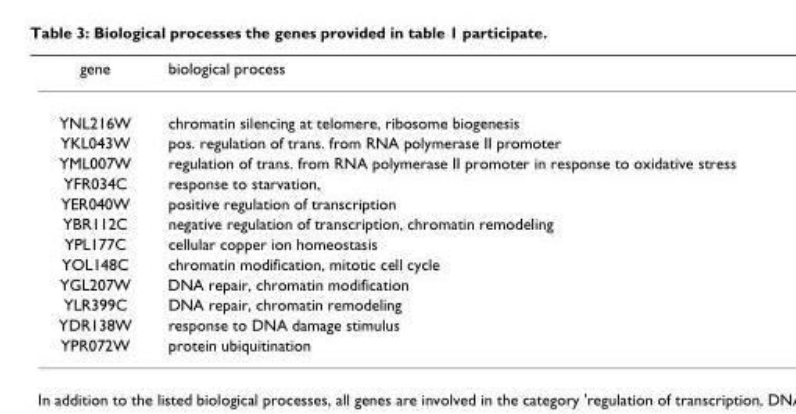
<table><thead><tr><td>gene</td><td>biological process</td></tr></thead><tbody><tr><td>YNL216W</td><td>chromatin silencing at telomere, ribosome biogenesis</td></tr><tr><td>YKL043W</td><td>pos. regulation of trans. from RNA polymerase II promoter</td></tr><tr><td>YML007W</td><td>regulation of trans. from RNA polymerase II promoter in response to oxidative stress</td></tr><tr><td>YFR034C</td><td>response to starvation,</td></tr><tr><td>YER040W</td><td>positive regulation of transcription</td></tr><tr><td>YBR112C</td><td>negative regulation of transcription, chromatin remodeling</td></tr><tr><td>YPL177C</td><td>cellular copper ion homeostasis</td></tr><tr><td>YOL148C</td><td>chromatin modification, mitotic cell cycle</td></tr><tr><td>YGL207W</td><td>DNA repair, chromatin modification</td></tr><tr><td>YLR399C</td><td>DNA repair, chromatin remodeling</td></tr><tr><td>YDR138W</td><td>response to DNA damage stimulus</td></tr><tr><td>YPR072W</td><td>protein ubiquitination</td></tr></tbody></table>